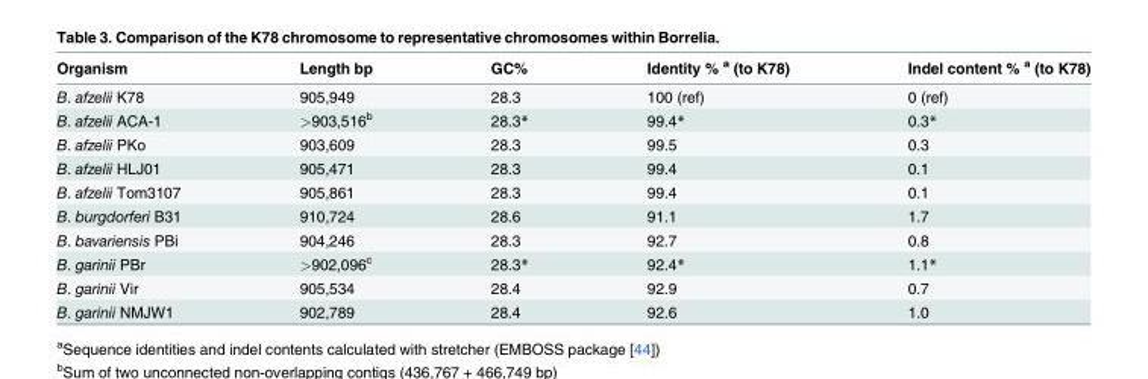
<table><thead><tr><td>Organism</td><td>Length bp</td><td>GC%</td><td>Identity % <sup>a</sup> (to K78)</td><td>Indel content % <sup>a</sup> (to K78)</td></tr></thead><tbody><tr><td>B. afzelii K78</td><td>905,949</td><td>28.3</td><td>100 (ref)</td><td>0 (ref)</td></tr><tr><td>B. afzelii ACA-1</td><td>&gt;903,516<sup>b</sup></td><td>28.3*</td><td>99.4*</td><td>0.3*</td></tr><tr><td>B. afzelii PKo</td><td>903,609</td><td>28.3</td><td>99.5</td><td>0.3</td></tr><tr><td>B. afzelii HLJ01</td><td>905,471</td><td>28.3</td><td>99.4</td><td>0.1</td></tr><tr><td>B. afzelii Tom3107</td><td>905,861</td><td>28.3</td><td>99.4</td><td>0.1</td></tr><tr><td>B. burgdorferi B31</td><td>910,724</td><td>28.6</td><td>91.1</td><td>1.7</td></tr><tr><td>B. bavariensis PBi</td><td>904,246</td><td>28.3</td><td>92.7</td><td>0.8</td></tr><tr><td>B. garinii PBr</td><td>&gt;902,096<sup>c</sup></td><td>28.3*</td><td>92.4*</td><td>1.1*</td></tr><tr><td>B. garinii Vir</td><td>905,534</td><td>28.4</td><td>92.9</td><td>0.7</td></tr><tr><td>B. garinii NMJW1</td><td>902,789</td><td>28.4</td><td>92.6</td><td>1.0</td></tr></tbody></table>